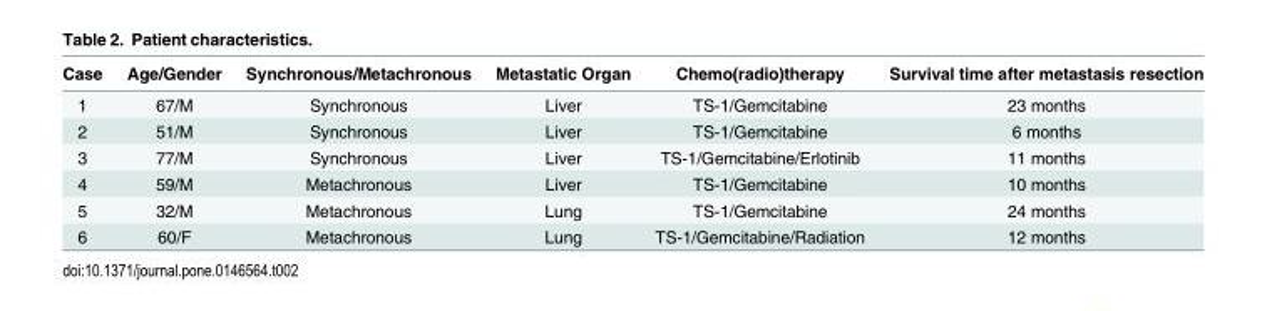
<table><thead><tr><td>Case</td><td>Age/Gender</td><td>Synchronous/Metachronous</td><td>Metastatic Organ</td><td>Chemo(radio)therapy</td><td>Survival time after metastasis resection</td></tr></thead><tbody><tr><td>1</td><td>67/M</td><td>Synchronous</td><td>Liver</td><td>TS-1/Gemcitabine</td><td>23 months</td></tr><tr><td>2</td><td>51/M</td><td>Synchronous</td><td>Liver</td><td>TS-1/Gemcitabine</td><td>6 months</td></tr><tr><td>3</td><td>77/M</td><td>Synchronous</td><td>Liver</td><td>TS-1/Gemcitabine/Erlotinib</td><td>11 months</td></tr><tr><td>4</td><td>59/M</td><td>Metachronous</td><td>Liver</td><td>TS-1/Gemcitabine</td><td>10 months</td></tr><tr><td>5</td><td>32/M</td><td>Metachronous</td><td>Lung</td><td>TS-1/Gemcitabine</td><td>24 months</td></tr><tr><td>6</td><td>60/F</td><td>Metachronous</td><td>Lung</td><td>TS-1/Gemcitabine/Radiation</td><td>12 months</td></tr></tbody></table>